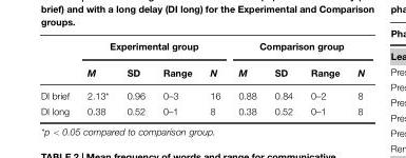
<table><thead><tr><td rowspan="2"></td><td colspan="4">Experimental group</td><td colspan="4">Comparison group</td></tr><tr><td>M</td><td>SD</td><td>Range</td><td>N</td><td>M</td><td>SD</td><td>Range</td><td>N</td></tr></thead><tbody><tr><td>DI brief</td><td>2.13*</td><td>0.96</td><td>0–3</td><td>16</td><td>0.88</td><td>0.84</td><td>0–2</td><td>8</td></tr><tr><td>DI long</td><td>0.38</td><td>0.52</td><td>0–1</td><td>8</td><td>0.38</td><td>0.52</td><td>0–1</td><td>8</td></tr></tbody></table>